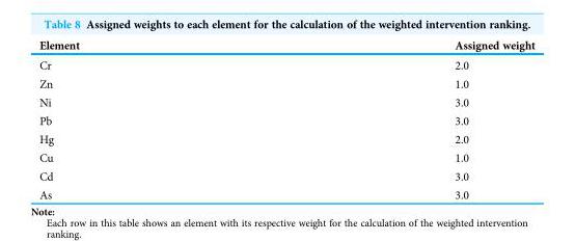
<table><thead><tr><td>Element</td><td>Assigned weight</td></tr></thead><tbody><tr><td>Cr</td><td>2.0</td></tr><tr><td>Zn</td><td>1.0</td></tr><tr><td>Ni</td><td>3.0</td></tr><tr><td>Pb</td><td>3.0</td></tr><tr><td>Hg</td><td>2.0</td></tr><tr><td>Cu</td><td>1.0</td></tr><tr><td>Cd</td><td>3.0</td></tr><tr><td>As</td><td>3.0</td></tr></tbody></table>